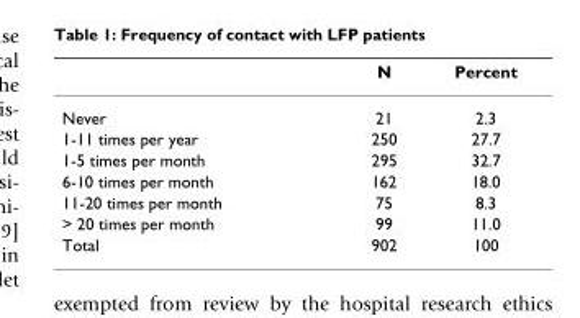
<table><thead><tr><td></td><td>N</td><td>Percent</td></tr></thead><tbody><tr><td>Never</td><td>21</td><td>2.3</td></tr><tr><td>1-11 times per year</td><td>250</td><td>27.7</td></tr><tr><td>1-5 times per month</td><td>295</td><td>32.7</td></tr><tr><td>6-10 times per month</td><td>162</td><td>18.0</td></tr><tr><td>11-20 times per month</td><td>75</td><td>8.3</td></tr><tr><td>&gt; 20 times per month</td><td>99</td><td>11.0</td></tr><tr><td>Total</td><td>902</td><td>100</td></tr></tbody></table>